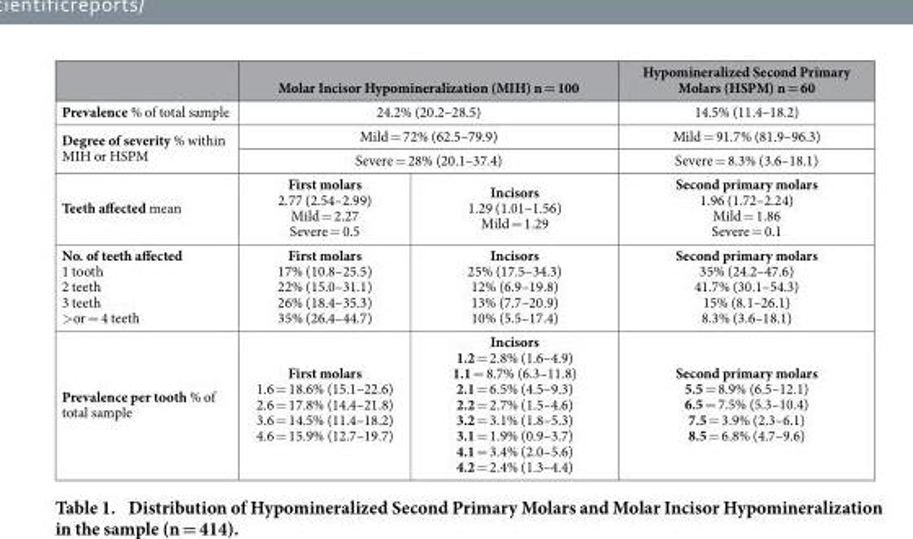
<table><thead><tr><td></td><td colspan="2">Molar Incisor Hypomineralization (MIH) n = 100</td><td>Hypomineralized Second Primary Molars (HSPM) n = 60</td></tr></thead><tbody><tr><td>Prevalence % of total sample</td><td colspan="2">24.2% (20.2–28.5)</td><td>14.5% (11.4–18.2)</td></tr><tr><td rowspan="2">Degree of severity % within MIH or HSPM</td><td colspan="2">Mild = 72% (62.5–79.9)</td><td>Mild = 91.7% (81.9–96.3)</td></tr><tr><td colspan="2">Severe = 28% (20.1–37.4)</td><td>Severe = 8.3% (3.6–18.1)</td></tr><tr><td>Teeth affected mean</td><td>First molars 2.77 (2.54–2.99) Mild = 2.27 Severe = 0.5</td><td>Incisors 1.29 (1.01–1.56) Mild = 1.29</td><td>Second primary molars 1.96 (1.72–2.24) Mild = 1.86 Severe = 0.1</td></tr><tr><td>No. of teeth affected 1 tooth 2 teeth 3 teeth &gt; or = 4 teeth</td><td>First molars 17% (10.8–25.5) 22% (15.0–31.1) 26% (18.4–35.3) 35% (26.4–44.7)</td><td>Incisors 25% (17.5–34.3) 12% (6.9–19.8) 13% (7.7–20.9) 10% (5.5–17.4)</td><td>Second primary molars 35% (24.2–47.6) 41.7% (30.1–54.3) 15% (8.1–26.1) 8.3% (3.6–18.1)</td></tr><tr><td>Prevalence per tooth % of total sample</td><td>First molars 1.6 = 18.6% (15.1–22.6) 2.6 = 17.8% (14.4–21.8) 3.6 = 14.5% (11.4–18.2) 4.6 = 15.9% (12.7–19.7)</td><td>Incisors 1.2 = 2.8% (1.6–4.9) 1.1 = 8.7% (6.3–11.8) 2.1 = 6.5% (4.5–9.3) 2.2 = 2.7% (1.5–4.6) 3.2 = 3.1% (1.8–5.3) 3.1 = 1.9% (0.9–3.7) 4.1 = 3.4% (2.0–5.6) 4.2 = 2.4% (1.3–4.4)</td><td>Second primary molars 5.5 = 8.9% (6.5–12.1) 6.5 = 7.5% (5.3–10.4) 7.5 = 3.9% (2.3–6.1) 8.5 = 6.8% (4.7–9.6)</td></tr></tbody></table>